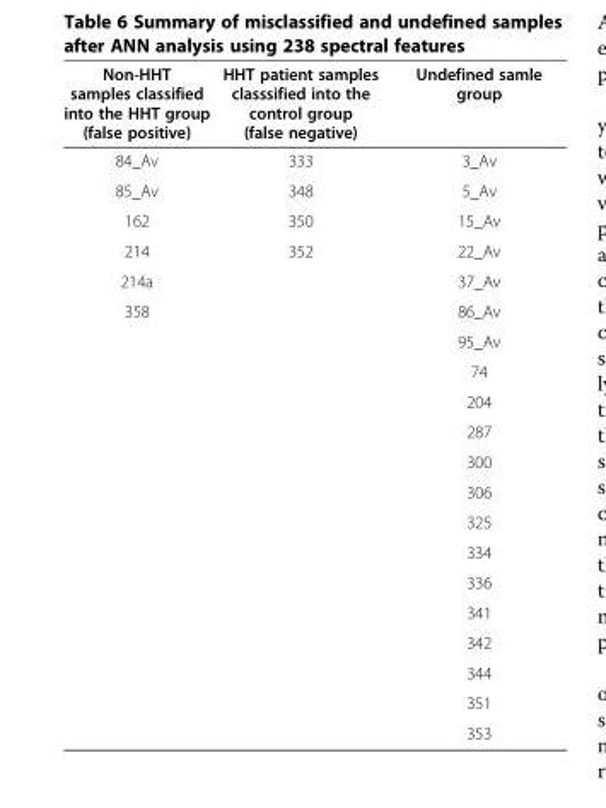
<table><thead><tr><td>Non-HHT samples classified into the HHT group (false positive)</td><td>HHT patient samples classsified into the control group (false negative)</td><td>Undefined samle group</td></tr></thead><tbody><tr><td>84_Av</td><td>333</td><td>3_Av</td></tr><tr><td>85_Av</td><td>348</td><td>5_Av</td></tr><tr><td>162</td><td>350</td><td>15_Av</td></tr><tr><td>214</td><td>352</td><td>22_Av</td></tr><tr><td>214a</td><td></td><td>37_Av</td></tr><tr><td rowspan="15">358</td><td></td><td>86_Av</td></tr><tr><td></td><td>95_Av</td></tr><tr><td></td><td>74</td></tr><tr><td></td><td>204</td></tr><tr><td></td><td>287</td></tr><tr><td></td><td>300</td></tr><tr><td></td><td>306</td></tr><tr><td></td><td>325</td></tr><tr><td></td><td>334</td></tr><tr><td></td><td>336</td></tr><tr><td></td><td>341</td></tr><tr><td></td><td>342</td></tr><tr><td></td><td>344</td></tr><tr><td></td><td>351</td></tr><tr><td></td><td>353</td></tr></tbody></table>